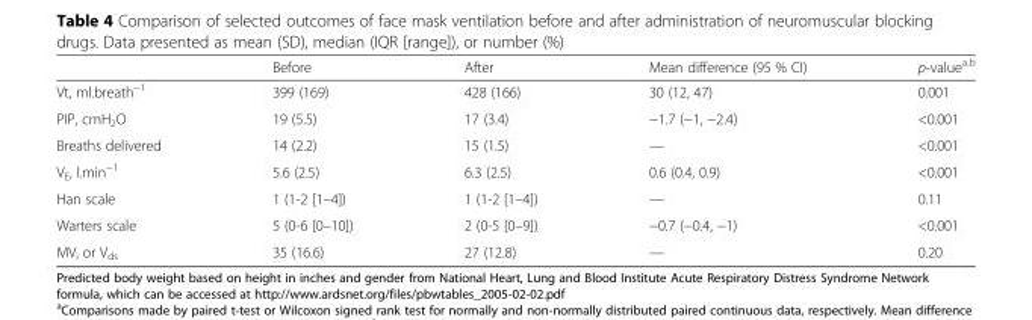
<table><thead><tr><td></td><td>Before</td><td>After</td><td>Mean difference (95 % CI)</td><td>p-value<sup>a,b</sup></td></tr></thead><tbody><tr><td>Vt, ml.breath<sup>−1</sup></td><td>399 (169)</td><td>428 (166)</td><td>30 (12, 47)</td><td>0.001</td></tr><tr><td>PIP, cmH<sub>2</sub>O</td><td>19 (5.5)</td><td>17 (3.4)</td><td>−1.7 (−1, −2.4)</td><td>&lt;0.001</td></tr><tr><td>Breaths delivered</td><td>14 (2.2)</td><td>15 (1.5)</td><td>—</td><td>&lt;0.001</td></tr><tr><td>V<sub>E</sub>, l.min<sup>−1</sup></td><td>5.6 (2.5)</td><td>6.3 (2.5)</td><td>0.6 (0.4, 0.9)</td><td>&lt;0.001</td></tr><tr><td>Han scale</td><td>1 (1-2 [1–4])</td><td>1 (1-2 [1–4])</td><td>—</td><td>0.11</td></tr><tr><td>Warters scale</td><td>5 (0-6 [0–10])</td><td>2 (0-5 [0–9])</td><td>−0.7 (−0.4, −1)</td><td>&lt;0.001</td></tr><tr><td>MV<sub>i</sub> or V<sub>ds</sub></td><td>35 (16.6)</td><td>27 (12.8)</td><td>—</td><td>0.20</td></tr></tbody></table>